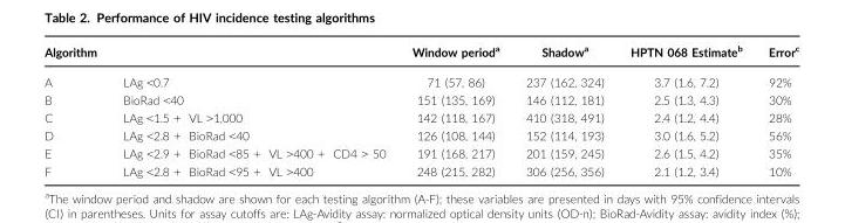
<table><thead><tr><td>Algorithm</td><td></td><td>Window period<sup>a</sup></td><td>Shadow<sup>a</sup></td><td>HPTN 068 Estimate<sup>b</sup></td><td>Error<sup>c</sup></td></tr></thead><tbody><tr><td>A</td><td>LAg &lt;0.7</td><td>71 (57, 86)</td><td>237 (162, 324)</td><td>3.7 (1.6, 7.2)</td><td>92%</td></tr><tr><td>B</td><td>BioRad &lt;40</td><td>151 (135, 169)</td><td>146 (112, 181)</td><td>2.5 (1.3, 4.3)</td><td>30%</td></tr><tr><td>C</td><td>LAg &lt;1.5 + VL &gt;1,000</td><td>142 (118, 167)</td><td>410 (318, 491)</td><td>2.4 (1.2, 4.4)</td><td>28%</td></tr><tr><td>D</td><td>LAg &lt;2.8 + BioRad &lt;40</td><td>126 (108, 144)</td><td>152 (114, 193)</td><td>3.0 (1.6, 5.2)</td><td>56%</td></tr><tr><td>E</td><td>LAg &lt;2.9 + BioRad &lt;85 + VL &gt;400 + CD4 &gt; 50</td><td>191 (168, 217)</td><td>201 (159, 245)</td><td>2.6 (1.5, 4.2)</td><td>35%</td></tr><tr><td>F</td><td>LAg &lt;2.8 + BioRad &lt;95 + VL &gt;400</td><td>248 (215, 282)</td><td>306 (256, 356)</td><td>2.1 (1.2, 3.4)</td><td>10%</td></tr></tbody></table>